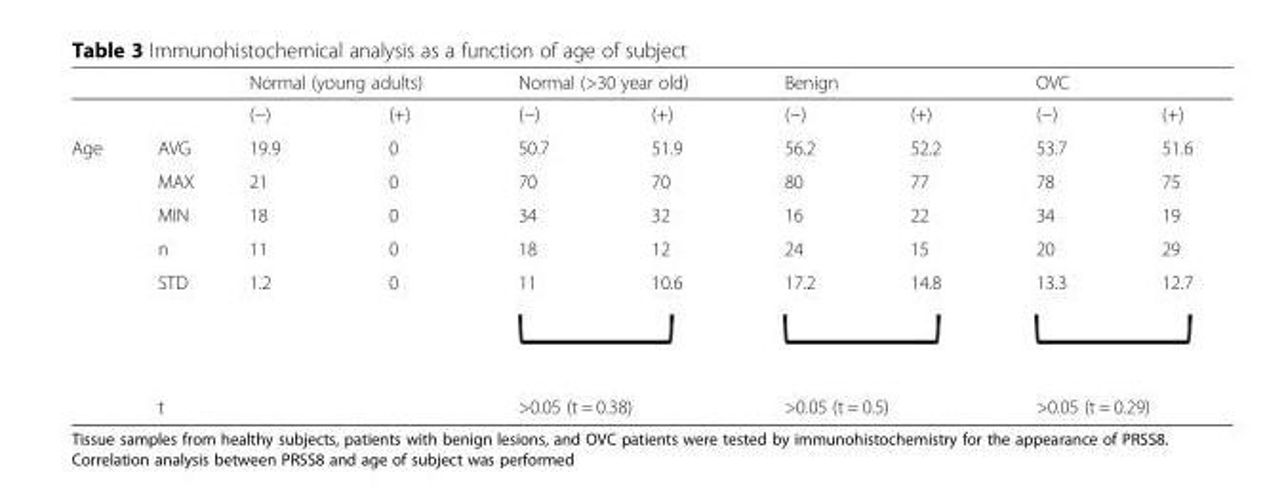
<table><thead><tr><td rowspan="2"></td><td rowspan="2"></td><td colspan="2">Normal (young adults)</td><td colspan="2">Normal (&gt;30 year old)</td><td colspan="2">Benign</td><td colspan="2">OVC</td></tr><tr><td>(−)</td><td>(+)</td><td>(−)</td><td>(+)</td><td>(−)</td><td>(+)</td><td>(−)</td><td>(+)</td></tr></thead><tbody><tr><td rowspan="6">Age</td><td>AVG</td><td>19.9</td><td>0</td><td>50.7</td><td>51.9</td><td>56.2</td><td>52.2</td><td>53.7</td><td>51.6</td></tr><tr><td>MAX</td><td>21</td><td>0</td><td>70</td><td>70</td><td>80</td><td>77</td><td>78</td><td>75</td></tr><tr><td>MIN</td><td>18</td><td>0</td><td>34</td><td>32</td><td>16</td><td>22</td><td>34</td><td>19</td></tr><tr><td>n</td><td>11</td><td>0</td><td>18</td><td>12</td><td>24</td><td>15</td><td>20</td><td>29</td></tr><tr><td>STD</td><td>1.2</td><td>0</td><td>11</td><td>10.6</td><td>17.2</td><td>14.8</td><td>13.3</td><td>12.7</td></tr><tr><td>t</td><td></td><td></td><td colspan="2">&gt;0.05 (t = 0.38)</td><td colspan="2">&gt;0.05 (t = 0.5)</td><td colspan="2">&gt;0.05 (t = 0.29)</td></tr></tbody></table>